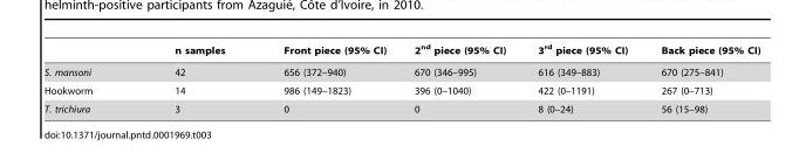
<table><thead><tr><td></td><td>n samples</td><td>Front piece (95% CI)</td><td>2<sup>nd</sup> piece (95% CI)</td><td>3<sup>rd</sup> piece (95% CI)</td><td>Back piece (95% CI)</td></tr></thead><tbody><tr><td>S. mansoni</td><td>42</td><td>656 (372–940)</td><td>670 (346–995)</td><td>616 (349–883)</td><td>670 (275–841)</td></tr><tr><td>Hookworm</td><td>14</td><td>986 (149–1823)</td><td>396 (0–1040)</td><td>422 (0–1191)</td><td>267 (0–713)</td></tr><tr><td>T. trichiura</td><td>3</td><td>0</td><td>0</td><td>8 (0–24)</td><td>56 (15–98)</td></tr></tbody></table>